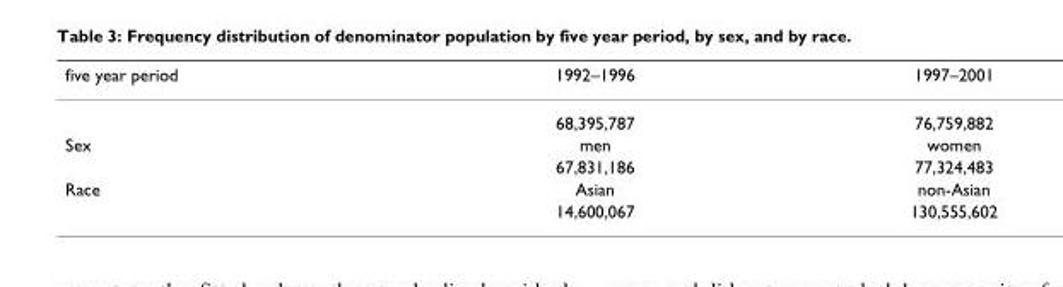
<table><thead><tr><td>five year period</td><td>1992–1996</td><td>1997–2001</td></tr></thead><tbody><tr><td></td><td>68,395,787</td><td>76,759,882</td></tr><tr><td rowspan="2">Sex</td><td>men</td><td>women</td></tr><tr><td>67,831,186</td><td>77,324,483</td></tr><tr><td rowspan="2">Race</td><td>Asian</td><td>non-Asian</td></tr><tr><td>14,600,067</td><td>130,555,602</td></tr></tbody></table>